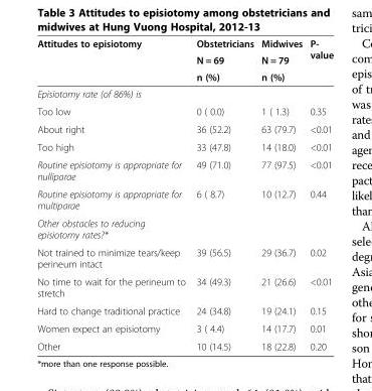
<table><thead><tr><td rowspan="3">Attitudes to episiotomy</td><td rowspan="3">Obstetricians N = 69 n (%)</td><td rowspan="3">Midwives N = 79 n (%)</td><td rowspan="3">P- value</td></tr><tr></tr><tr></tr></thead><tbody><tr><td colspan="4">Episiotomy rate (of 86%) is</td></tr><tr><td>Too low</td><td>0 ( 0.0)</td><td>1 ( 1.3)</td><td>0.35</td></tr><tr><td>About right</td><td>36 (52.2)</td><td>63 (79.7)</td><td>&lt;0.01</td></tr><tr><td>Too high</td><td>33 (47.8)</td><td>14 (18.0)</td><td>&lt;0.01</td></tr><tr><td>Routine episiotomy is appropriate for nulliparae</td><td>49 (71.0)</td><td>77 (97.5)</td><td>&lt;0.01</td></tr><tr><td>Routine episiotomy is appropriate for multiparae</td><td>6 ( 8.7)</td><td>10 (12.7)</td><td>0.44</td></tr><tr><td colspan="4">Other obstacles to reducing episiotomy rates?*</td></tr><tr><td>Not trained to minimize tears/keep perineum intact</td><td>39 (56.5)</td><td>29 (36.7)</td><td>0.02</td></tr><tr><td>No time to wait for the perineum to stretch</td><td>34 (49.3)</td><td>21 (26.6)</td><td>&lt;0.01</td></tr><tr><td>Hard to change traditional practice</td><td>24 (34.8)</td><td>19 (24.1)</td><td>0.15</td></tr><tr><td>Women expect an episiotomy</td><td>3 ( 4.4)</td><td>14 (17.7)</td><td>0.01</td></tr><tr><td>Other</td><td>10 (14.5)</td><td>18 (22.8)</td><td>0.20</td></tr></tbody></table>